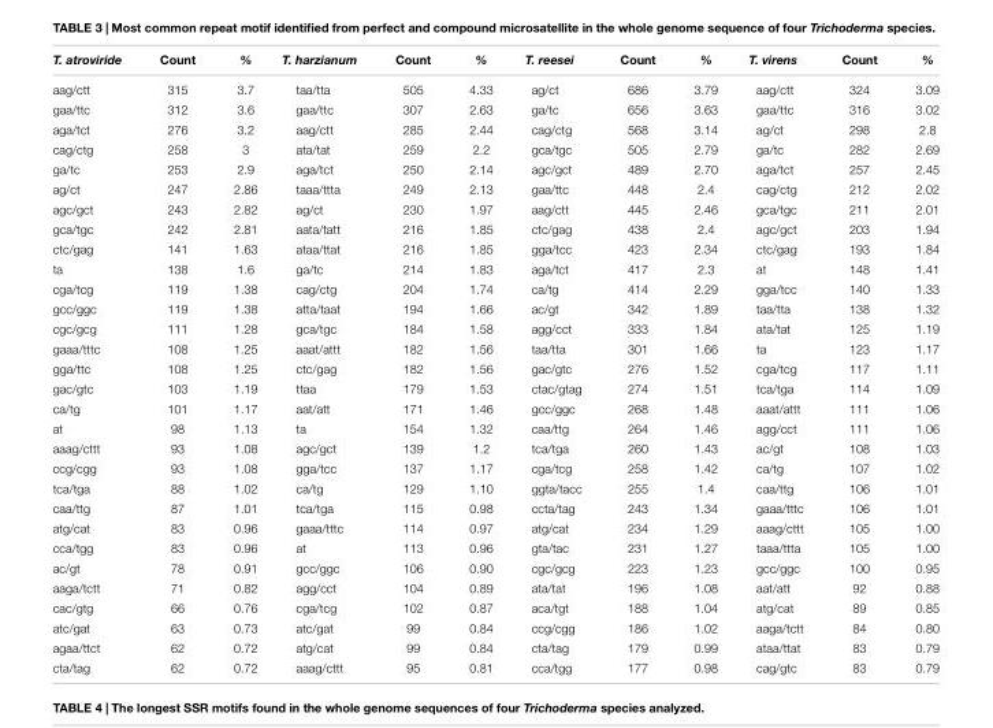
<table><thead><tr><td>T. atroviride</td><td>Count</td><td>%</td><td>T. harzianum</td><td>Count</td><td>%</td><td>T. reesei</td><td>Count</td><td>%</td><td>T. virens</td><td>Count</td><td>%</td></tr></thead><tbody><tr><td>aag/ctt</td><td>315</td><td>3.7</td><td>taa/tta</td><td>505</td><td>4.33</td><td>ag/ct</td><td>686</td><td>3.79</td><td>aag/ctt</td><td>324</td><td>3.09</td></tr><tr><td>gaa/ttc</td><td>312</td><td>3.6</td><td>gaa/ttc</td><td>307</td><td>2.63</td><td>ga/tc</td><td>656</td><td>3.63</td><td>gaa/ttc</td><td>316</td><td>3.02</td></tr><tr><td>aga/tct</td><td>276</td><td>3.2</td><td>aag/ctt</td><td>285</td><td>2.44</td><td>cag/ctg</td><td>568</td><td>3.14</td><td>ag/ct</td><td>298</td><td>2.8</td></tr><tr><td>cag/ctg</td><td>258</td><td>3</td><td>ata/tat</td><td>259</td><td>2.2</td><td>gca/tgc</td><td>505</td><td>2.79</td><td>ga/tc</td><td>282</td><td>2.69</td></tr><tr><td>ga/tc</td><td>253</td><td>2.9</td><td>aga/tct</td><td>250</td><td>2.14</td><td>agc/gct</td><td>489</td><td>2.70</td><td>aga/tct</td><td>257</td><td>2.45</td></tr><tr><td>ag/ct</td><td>247</td><td>2.86</td><td>taaa/ttta</td><td>249</td><td>2.13</td><td>gaa/ttc</td><td>448</td><td>2.4</td><td>cag/ctg</td><td>212</td><td>2.02</td></tr><tr><td>agc/gct</td><td>243</td><td>2.82</td><td>ag/ct</td><td>230</td><td>1.97</td><td>aag/ctt</td><td>445</td><td>2.46</td><td>gca/tgc</td><td>211</td><td>2.01</td></tr><tr><td>gca/tgc</td><td>242</td><td>2.81</td><td>aata/tatt</td><td>216</td><td>1.85</td><td>ctc/gag</td><td>438</td><td>2.4</td><td>agc/gct</td><td>203</td><td>1.94</td></tr><tr><td>ctc/gag</td><td>141</td><td>1.63</td><td>ataa/ttat</td><td>216</td><td>1.85</td><td>gga/tcc</td><td>423</td><td>2.34</td><td>ctc/gag</td><td>193</td><td>1.84</td></tr><tr><td>ta</td><td>138</td><td>1.6</td><td>ga/tc</td><td>214</td><td>1.83</td><td>aga/tct</td><td>417</td><td>2.3</td><td>at</td><td>148</td><td>1.41</td></tr><tr><td>cga/tcg</td><td>119</td><td>1.38</td><td>cag/ctg</td><td>204</td><td>1.74</td><td>ca/tg</td><td>414</td><td>2.29</td><td>gga/tcc</td><td>140</td><td>1.33</td></tr><tr><td>gcc/ggc</td><td>119</td><td>1.38</td><td>atta/taat</td><td>194</td><td>1.66</td><td>ac/gt</td><td>342</td><td>1.89</td><td>taa/tta</td><td>138</td><td>1.32</td></tr><tr><td>cgc/gcg</td><td>111</td><td>1.28</td><td>gca/tgc</td><td>184</td><td>1.58</td><td>agg/cct</td><td>333</td><td>1.84</td><td>ata/tat</td><td>125</td><td>1.19</td></tr><tr><td>gaaa/tttc</td><td>108</td><td>1.25</td><td>aaat/attt</td><td>182</td><td>1.56</td><td>taa/tta</td><td>301</td><td>1.66</td><td>ta</td><td>123</td><td>1.17</td></tr><tr><td>gga/ttc</td><td>108</td><td>1.25</td><td>ctc/gag</td><td>182</td><td>1.56</td><td>gac/gtc</td><td>276</td><td>1.52</td><td>cga/tcg</td><td>117</td><td>1.11</td></tr><tr><td>gac/gtc</td><td>103</td><td>1.19</td><td>ttaa</td><td>179</td><td>1.53</td><td>ctac/gtag</td><td>274</td><td>1.51</td><td>tca/tga</td><td>114</td><td>1.09</td></tr><tr><td>ca/tg</td><td>101</td><td>1.17</td><td>aat/att</td><td>171</td><td>1.46</td><td>gcc/ggc</td><td>268</td><td>1.48</td><td>aaat/attt</td><td>111</td><td>1.06</td></tr><tr><td>at</td><td>98</td><td>1.13</td><td>ta</td><td>154</td><td>1.32</td><td>caa/ttg</td><td>264</td><td>1.46</td><td>agg/cct</td><td>111</td><td>1.06</td></tr><tr><td>aaag/cttt</td><td>93</td><td>1.08</td><td>agc/gct</td><td>139</td><td>1.2</td><td>tca/tga</td><td>260</td><td>1.43</td><td>ac/gt</td><td>108</td><td>1.03</td></tr><tr><td>ccg/cgg</td><td>93</td><td>1.08</td><td>gga/tcc</td><td>137</td><td>1.17</td><td>cga/tcg</td><td>258</td><td>1.42</td><td>ca/tg</td><td>107</td><td>1.02</td></tr><tr><td>tca/tga</td><td>88</td><td>1.02</td><td>ca/tg</td><td>129</td><td>1.10</td><td>ggta/tacc</td><td>255</td><td>1.4</td><td>caa/ttg</td><td>106</td><td>1.01</td></tr><tr><td>caa/ttg</td><td>87</td><td>1.01</td><td>tca/tga</td><td>115</td><td>0.98</td><td>ccta/tag</td><td>243</td><td>1.34</td><td>gaaa/tttc</td><td>106</td><td>1.01</td></tr><tr><td>atg/cat</td><td>83</td><td>0.96</td><td>gaaa/tttc</td><td>114</td><td>0.97</td><td>atg/cat</td><td>234</td><td>1.29</td><td>aaag/cttt</td><td>105</td><td>1.00</td></tr><tr><td>cca/tgg</td><td>83</td><td>0.96</td><td>at</td><td>113</td><td>0.96</td><td>gta/tac</td><td>231</td><td>1.27</td><td>taaa/ttta</td><td>105</td><td>1.00</td></tr><tr><td>ac/gt</td><td>78</td><td>0.91</td><td>gcc/ggc</td><td>106</td><td>0.90</td><td>cgc/gcg</td><td>223</td><td>1.23</td><td>gcc/ggc</td><td>100</td><td>0.95</td></tr><tr><td>aaga/tctt</td><td>71</td><td>0.82</td><td>agg/cct</td><td>104</td><td>0.89</td><td>ata/tat</td><td>196</td><td>1.08</td><td>aat/att</td><td>92</td><td>0.88</td></tr><tr><td>cac/gtg</td><td>66</td><td>0.76</td><td>cga/tcg</td><td>102</td><td>0.87</td><td>aca/tgt</td><td>188</td><td>1.04</td><td>atg/cat</td><td>89</td><td>0.85</td></tr><tr><td>atc/gat</td><td>63</td><td>0.73</td><td>atc/gat</td><td>99</td><td>0.84</td><td>ccg/cgg</td><td>186</td><td>1.02</td><td>aaga/tctt</td><td>84</td><td>0.80</td></tr><tr><td>agaa/ttct</td><td>62</td><td>0.72</td><td>atg/cat</td><td>99</td><td>0.84</td><td>cta/tag</td><td>179</td><td>0.99</td><td>ataa/ttat</td><td>83</td><td>0.79</td></tr><tr><td>cta/tag</td><td>62</td><td>0.72</td><td>aaag/cttt</td><td>95</td><td>0.81</td><td>cca/tgg</td><td>177</td><td>0.98</td><td>cag/gtc</td><td>83</td><td>0.79</td></tr></tbody></table>